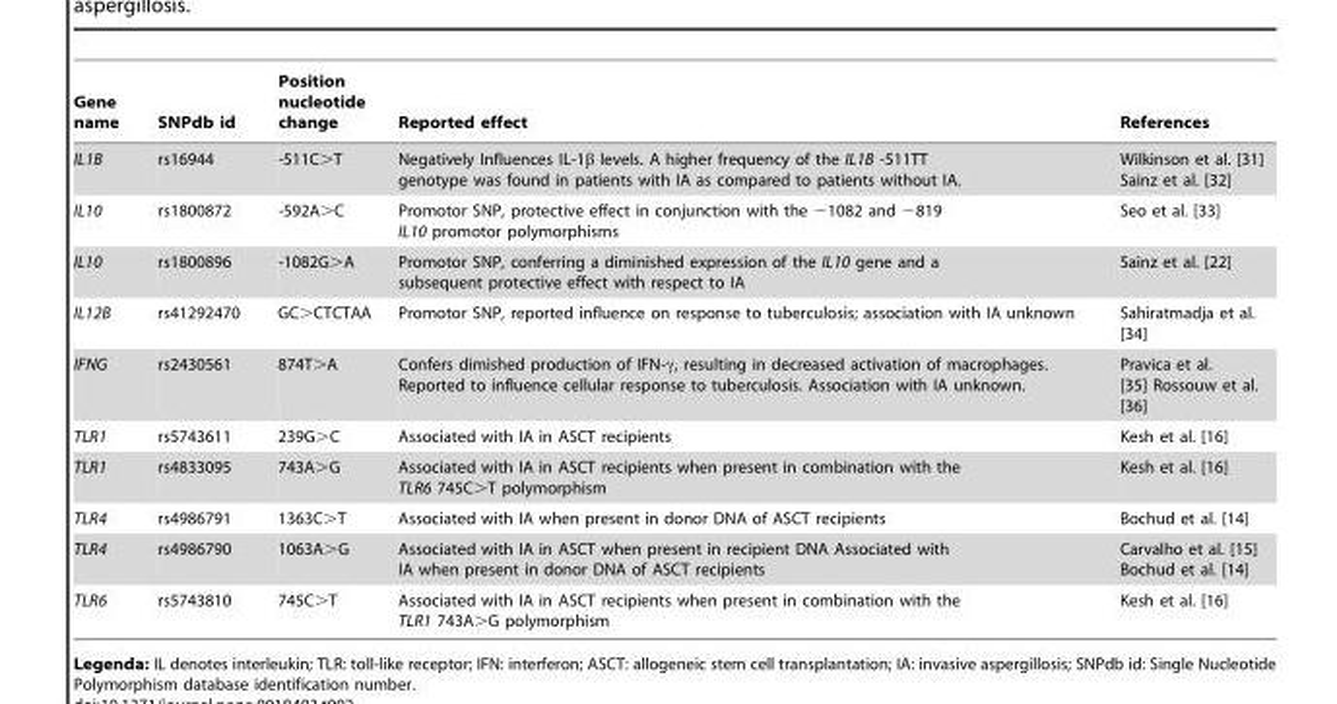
<table><thead><tr><td>Gene name</td><td>SNPdb id</td><td>Position nucleotide change</td><td>Reported effect</td><td>References</td></tr></thead><tbody><tr><td>IL1B</td><td>rs16944</td><td>-511C&gt;T</td><td>Negatively Influences IL-1β levels. A higher frequency of the IL1B -511TT genotype was found in patients with IA as compared to patients without IA.</td><td>Wilkinson et al. [31] Sainz et al. [32]</td></tr><tr><td>IL10</td><td>rs1800872</td><td>-592A&gt;C</td><td>Promotor SNP, protective effect in conjunction with the −1082 and −819 IL10 promotor polymorphisms</td><td>Seo et al. [33]</td></tr><tr><td>IL10</td><td>rs1800896</td><td>-1082G&gt;A</td><td>Promotor SNP, conferring a diminished expression of the IL10 gene and a subsequent protective effect with respect to IA</td><td>Sainz et al. [22]</td></tr><tr><td>IL12B</td><td>rs41292470</td><td>GC&gt;CTCTAA</td><td>Promotor SNP, reported influence on response to tuberculosis; association with IA unknown</td><td>Sahiratmadja et al. [34]</td></tr><tr><td>IFNG</td><td>rs2430561</td><td>874T&gt;A</td><td>Confers dimished production of IFN-γ, resulting in decreased activation of macrophages. Reported to influence cellular response to tuberculosis. Association with IA unknown.</td><td>Pravica et al. [35] Rossouw et al. [36]</td></tr><tr><td>TLR1</td><td>rs5743611</td><td>239G&gt;C</td><td>Associated with IA in ASCT recipients</td><td>Kesh et al. [16]</td></tr><tr><td>TLR1</td><td>rs4833095</td><td>743A&gt;G</td><td>Associated with IA in ASCT recipients when present in combination with the TLR6 745C&gt;T polymorphism</td><td>Kesh et al. [16]</td></tr><tr><td>TLR4</td><td>rs4986791</td><td>1363C&gt;T</td><td>Associated with IA when present in donor DNA of ASCT recipients</td><td>Bochud et al. [14]</td></tr><tr><td>TLR4</td><td>rs4986790</td><td>1063A&gt;G</td><td>Associated with IA in ASCT when present in recipient DNA Associated with IA when present in donor DNA of ASCT recipients</td><td>Carvalho et al. [15] Bochud et al. [14]</td></tr><tr><td>TLR6</td><td>rs5743810</td><td>745C&gt;T</td><td>Associated with IA in ASCT recipients when present in combination with the TLR1 743A&gt;G polymorphism</td><td>Kesh et al. [16]</td></tr></tbody></table>